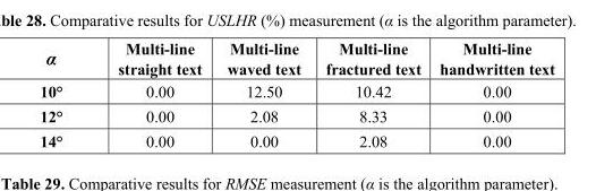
<table><thead><tr><td>α</td><td>Multi-line straight text</td><td>Multi-line waved text</td><td>Multi-line fractured text</td><td>Multi-line handwritten text</td></tr></thead><tbody><tr><td>10°</td><td>0.00</td><td>12.50</td><td>10.42</td><td>0.00</td></tr><tr><td>12°</td><td>0.00</td><td>2.08</td><td>8.33</td><td>0.00</td></tr><tr><td>14°</td><td>0.00</td><td>0.00</td><td>2.08</td><td>0.00</td></tr></tbody></table>